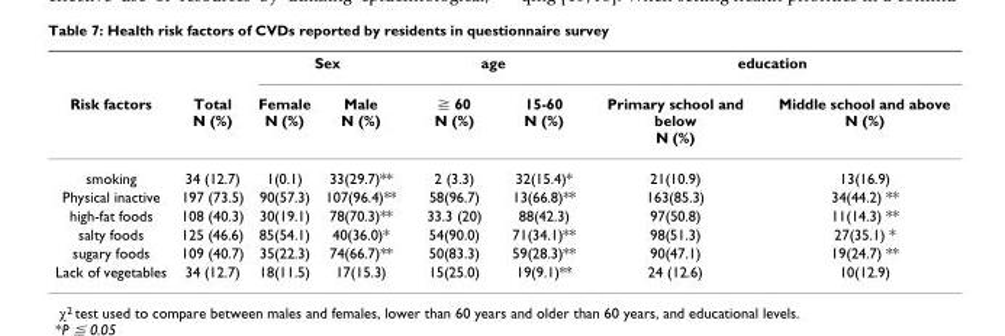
<table><thead><tr><td rowspan="2">Risk factors</td><td rowspan="2">Total N (%)</td><td colspan="2">Sex</td><td colspan="2">age</td><td colspan="2">education</td></tr><tr><td>Female N (%)</td><td>Male N (%)</td><td>≧ 60 N (%)</td><td>15-60 N (%)</td><td>Primary school and below N (%)</td><td>Middle school and above N (%)</td></tr></thead><tbody><tr><td>smoking</td><td>34 (12.7)</td><td>1(0.1)</td><td>33(29.7)**</td><td>2 (3.3)</td><td>32(15.4)*</td><td>21(10.9)</td><td>13(16.9)</td></tr><tr><td>Physical inactive</td><td>197 (73.5)</td><td>90(57.3)</td><td>107(96.4)**</td><td>58(96.7)</td><td>13(66.8)**</td><td>163(85.3)</td><td>34(44.2) **</td></tr><tr><td>high-fat foods</td><td>108 (40.3)</td><td>30(19.1)</td><td>78(70.3)**</td><td>33.3 (20)</td><td>88(42.3)</td><td>97(50.8)</td><td>11(14.3) **</td></tr><tr><td>salty foods</td><td>125 (46.6)</td><td>85(54.1)</td><td>40(36.0)*</td><td>54(90.0)</td><td>71(34.1)**</td><td>98(51.3)</td><td>27(35.1) *</td></tr><tr><td>sugary foods</td><td>109 (40.7)</td><td>35(22.3)</td><td>74(66.7)**</td><td>50(83.3)</td><td>59(28.3)**</td><td>90(47.1)</td><td>19(24.7) **</td></tr><tr><td>Lack of vegetables</td><td>34 (12.7)</td><td>18(11.5)</td><td>17(15.3)</td><td>15(25.0)</td><td>19(9.1)**</td><td>24 (12.6)</td><td>10(12.9)</td></tr></tbody></table>